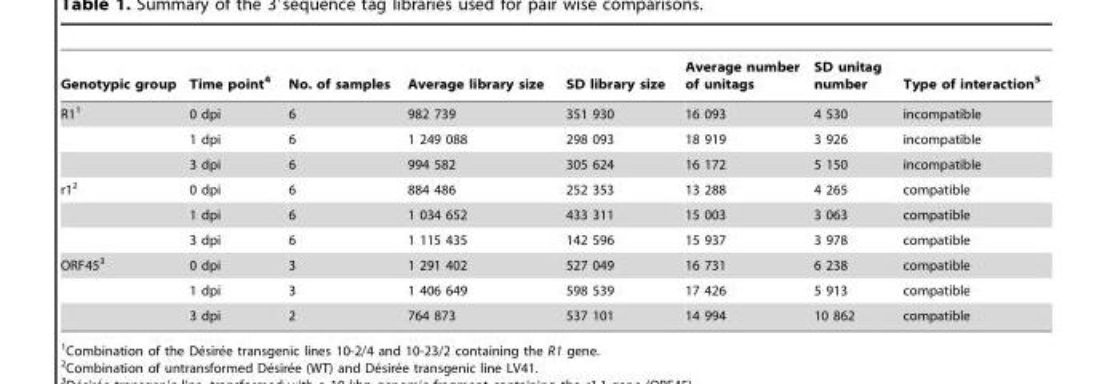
<table><thead><tr><td>Genotypic group</td><td>Time point<sup>4</sup></td><td>No. of samples</td><td>Average library size</td><td>SD library size</td><td>Average number of unitags</td><td>SD unitag number</td><td>Type of interaction<sup>5</sup></td></tr></thead><tbody><tr><td rowspan="3">R1<sup>1</sup></td><td>0 dpi</td><td>6</td><td>982 739</td><td>351 930</td><td>16 093</td><td>4 530</td><td>incompatible</td></tr><tr><td>1 dpi</td><td>6</td><td>1 249 088</td><td>298 093</td><td>18 919</td><td>3 926</td><td>incompatible</td></tr><tr><td>3 dpi</td><td>6</td><td>994 582</td><td>305 624</td><td>16 172</td><td>5 150</td><td>incompatible</td></tr><tr><td rowspan="3">r1<sup>2</sup></td><td>0 dpi</td><td>6</td><td>884 486</td><td>252 353</td><td>13 288</td><td>4 265</td><td>compatible</td></tr><tr><td>1 dpi</td><td>6</td><td>1 034 652</td><td>433 311</td><td>15 003</td><td>3 063</td><td>compatible</td></tr><tr><td>3 dpi</td><td>6</td><td>1 115 435</td><td>142 596</td><td>15 937</td><td>3 978</td><td>compatible</td></tr><tr><td rowspan="3">ORF45<sup>3</sup></td><td>0 dpi</td><td>3</td><td>1 291 402</td><td>527 049</td><td>16 731</td><td>6 238</td><td>compatible</td></tr><tr><td>1 dpi</td><td>3</td><td>1 406 649</td><td>598 539</td><td>17 426</td><td>5 913</td><td>compatible</td></tr><tr><td>3 dpi</td><td>2</td><td>764 873</td><td>537 101</td><td>14 994</td><td>10 862</td><td>compatible</td></tr></tbody></table>